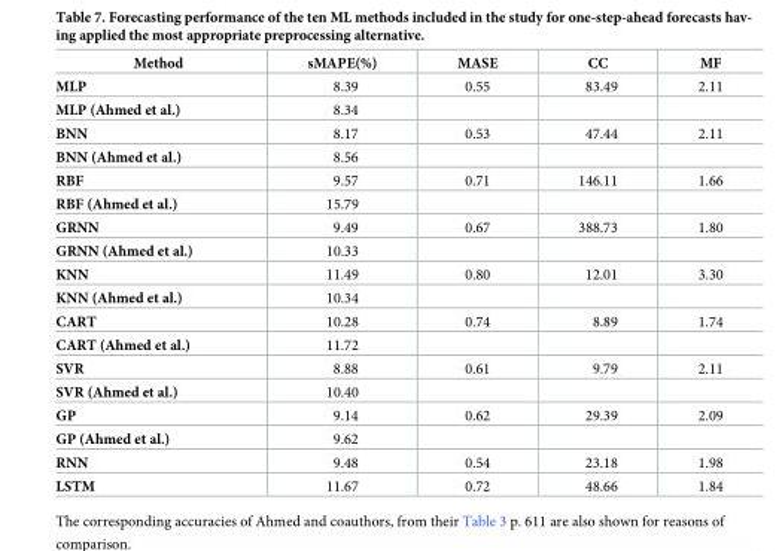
<table><thead><tr><td>Method</td><td>sMAPE(%)</td><td>MASE</td><td>CC</td><td>MF</td></tr></thead><tbody><tr><td>MLP</td><td>8.39</td><td>0.55</td><td>83.49</td><td>2.11</td></tr><tr><td>MLP (Ahmed et al.)</td><td>8.34</td><td></td><td></td><td></td></tr><tr><td>BNN</td><td>8.17</td><td>0.53</td><td>47.44</td><td>2.11</td></tr><tr><td>BNN (Ahmed et al.)</td><td>8.56</td><td></td><td></td><td></td></tr><tr><td>RBF</td><td>9.57</td><td>0.71</td><td>146.11</td><td>1.66</td></tr><tr><td>RBF (Ahmed et al.)</td><td>15.79</td><td></td><td></td><td></td></tr><tr><td>GRNN</td><td>9.49</td><td>0.67</td><td>388.73</td><td>1.80</td></tr><tr><td>GRNN (Ahmed et al.)</td><td>10.33</td><td></td><td></td><td></td></tr><tr><td>KNN</td><td>11.49</td><td>0.80</td><td>12.01</td><td>3.30</td></tr><tr><td>KNN (Ahmed et al.)</td><td>10.34</td><td></td><td></td><td></td></tr><tr><td>CART</td><td>10.28</td><td>0.74</td><td>8.89</td><td>1.74</td></tr><tr><td>CART (Ahmed et al.)</td><td>11.72</td><td></td><td></td><td></td></tr><tr><td>SVR</td><td>8.88</td><td>0.61</td><td>9.79</td><td>2.11</td></tr><tr><td>SVR (Ahmed et al.)</td><td>10.40</td><td></td><td></td><td></td></tr><tr><td>GP</td><td>9.14</td><td>0.62</td><td>29.39</td><td>2.09</td></tr><tr><td>GP (Ahmed et al.)</td><td>9.62</td><td></td><td></td><td></td></tr><tr><td>RNN</td><td>9.48</td><td>0.54</td><td>23.18</td><td>1.98</td></tr><tr><td>LSTM</td><td>11.67</td><td>0.72</td><td>48.66</td><td>1.84</td></tr></tbody></table>